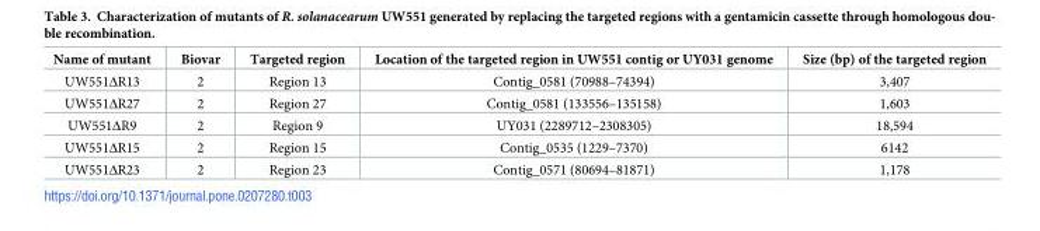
<table><thead><tr><td>Name of mutant</td><td>Biovar</td><td>Targeted region</td><td>Location of the targeted region in UW551 contig or UY031 genome</td><td>Size (bp) of the targeted region</td></tr></thead><tbody><tr><td>UW551ΔR13</td><td>2</td><td>Region 13</td><td>Contig_0581 (70988–74394)</td><td>3,407</td></tr><tr><td>UW551ΔR27</td><td>2</td><td>Region 27</td><td>Contig_0581 (133556–135158)</td><td>1,603</td></tr><tr><td>UW551ΔR9</td><td>2</td><td>Region 9</td><td>UY031 (2289712–2308305)</td><td>18,594</td></tr><tr><td>UW551ΔR15</td><td>2</td><td>Region 15</td><td>Contig_0535 (1229–7370)</td><td>6142</td></tr><tr><td>UW551ΔR23</td><td>2</td><td>Region 23</td><td>Contig_0571 (80694–81871)</td><td>1,178</td></tr></tbody></table>